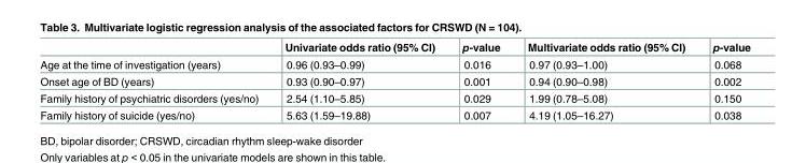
<table><thead><tr><td></td><td>Univariate odds ratio (95% CI)</td><td>p-value</td><td>Multivariate odds ratio (95% CI)</td><td>p-value</td></tr></thead><tbody><tr><td>Age at the time of investigation (years)</td><td>0.96 (0.93–0.99)</td><td>0.016</td><td>0.97 (0.93–1.00)</td><td>0.068</td></tr><tr><td>Onset age of BD (years)</td><td>0.93 (0.90–0.97)</td><td>0.001</td><td>0.94 (0.90–0.98)</td><td>0.002</td></tr><tr><td>Family history of psychiatric disorders (yes/no)</td><td>2.54 (1.10–5.85)</td><td>0.029</td><td>1.99 (0.78–5.08)</td><td>0.150</td></tr><tr><td>Family history of suicide (yes/no)</td><td>5.63 (1.59–19.88)</td><td>0.007</td><td>4.19 (1.05–16.27)</td><td>0.038</td></tr></tbody></table>